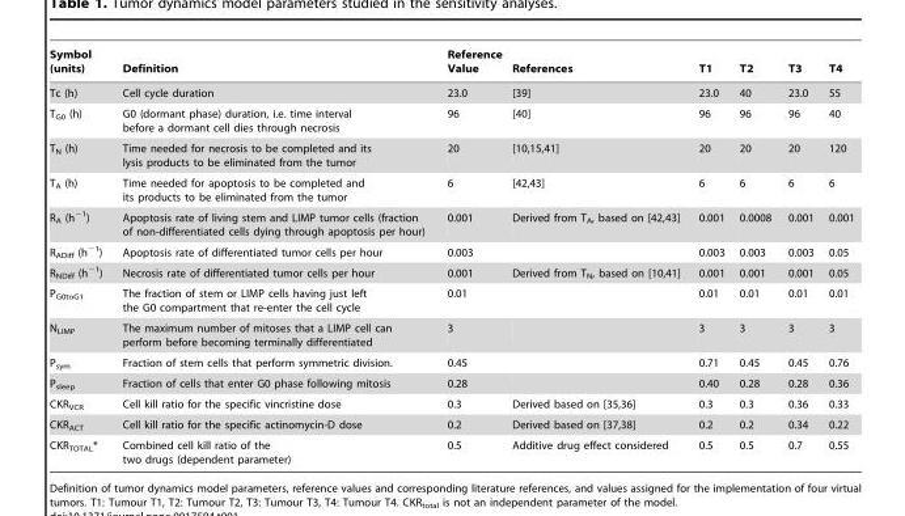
<table><thead><tr><td>Symbol (units)</td><td>Definition</td><td>Reference Value</td><td>References</td><td>T1</td><td>T2</td><td>T3</td><td>T4</td></tr></thead><tbody><tr><td>Tc (h)</td><td>Cell cycle duration</td><td>23.0</td><td>[39]</td><td>23.0</td><td>40</td><td>23.0</td><td>55</td></tr><tr><td>T<sub>G0</sub> (h)</td><td>G0 (dormant phase) duration, i.e. time interval before a dormant cell dies through necrosis</td><td>96</td><td>[40]</td><td>96</td><td>96</td><td>96</td><td>40</td></tr><tr><td>T<sub>N</sub> (h)</td><td>Time needed for necrosis to be completed and its lysis products to be eliminated from the tumor</td><td>20</td><td>[10,15,41]</td><td>20</td><td>20</td><td>20</td><td>120</td></tr><tr><td>T<sub>A</sub> (h)</td><td>Time needed for apoptosis to be completed and its products to be eliminated from the tumor</td><td>6</td><td>[42,43]</td><td>6</td><td>6</td><td>6</td><td>6</td></tr><tr><td>R<sub>A</sub> (h<sup>−1</sup>)</td><td>Apoptosis rate of living stem and LIMP tumor cells (fraction of non-differentiated cells dying through apoptosis per hour)</td><td>0.001</td><td>Derived from TA, based on [42,43]</td><td>0.001</td><td>0.0008</td><td>0.001</td><td>0.001</td></tr><tr><td>R<sub>ADiff</sub> (h<sup>−1</sup>)</td><td>Apoptosis rate of differentiated tumor cells per hour</td><td>0.003</td><td></td><td>0.003</td><td>0.003</td><td>0.003</td><td>0.05</td></tr><tr><td>R<sub>NDiff</sub> (h<sup>−1</sup>)</td><td>Necrosis rate of differentiated tumor cells per hour</td><td>0.001</td><td>Derived from TN, based on [10,41]</td><td>0.001</td><td>0.001</td><td>0.001</td><td>0.05</td></tr><tr><td>P<sub>G0toG1</sub></td><td>The fraction of stem or LIMP cells having just left the G0 compartment that re-enter the cell cycle</td><td>0.01</td><td></td><td>0.01</td><td>0.01</td><td>0.01</td><td>0.01</td></tr><tr><td>N<sub>LIMP</sub></td><td>The maximum number of mitoses that a LIMP cell can perform before becoming terminally differentiated</td><td>3</td><td></td><td>3</td><td>3</td><td>3</td><td>3</td></tr><tr><td>P<sub>sym</sub></td><td>Fraction of stem cells that perform symmetric division.</td><td>0.45</td><td></td><td>0.71</td><td>0.45</td><td>0.45</td><td>0.76</td></tr><tr><td>P<sub>sleep</sub></td><td>Fraction of cells that enter G0 phase following mitosis</td><td>0.28</td><td></td><td>0.40</td><td>0.28</td><td>0.28</td><td>0.36</td></tr><tr><td>CKR<sub>VCR</sub></td><td>Cell kill ratio for the specific vincristine dose</td><td>0.3</td><td>Derived based on [35,36]</td><td>0.3</td><td>0.3</td><td>0.36</td><td>0.33</td></tr><tr><td>CKR<sub>ACT</sub></td><td>Cell kill ratio for the specific actinomycin-D dose</td><td>0.2</td><td>Derived based on [37,38]</td><td>0.2</td><td>0.2</td><td>0.34</td><td>0.22</td></tr><tr><td>CKR<sub>TOTAL</sub>*</td><td>Combined cell kill ratio of the two drugs (dependent parameter)</td><td>0.5</td><td>Additive drug effect considered</td><td>0.5</td><td>0.5</td><td>0.7</td><td>0.55</td></tr></tbody></table>